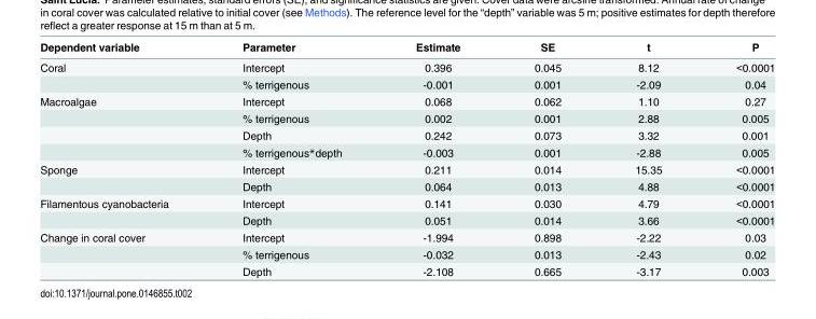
<table><thead><tr><td>Dependent variable</td><td>Parameter</td><td>Estimate</td><td>SE</td><td>t</td><td>P</td></tr></thead><tbody><tr><td rowspan="2">Coral</td><td>Intercept</td><td>0.396</td><td>0.045</td><td>8.12</td><td>&lt;0.0001</td></tr><tr><td>% terrigenous</td><td>-0.001</td><td>0.001</td><td>-2.09</td><td>0.04</td></tr><tr><td rowspan="4">Macroalgae</td><td>Intercept</td><td>0.068</td><td>0.062</td><td>1.10</td><td>0.27</td></tr><tr><td>% terrigenous</td><td>0.002</td><td>0.001</td><td>2.88</td><td>0.005</td></tr><tr><td>Depth</td><td>0.242</td><td>0.073</td><td>3.32</td><td>0.001</td></tr><tr><td>% terrigenous*depth</td><td>-0.003</td><td>0.001</td><td>-2.88</td><td>0.005</td></tr><tr><td rowspan="2">Sponge</td><td>Intercept</td><td>0.211</td><td>0.014</td><td>15.35</td><td>&lt;0.0001</td></tr><tr><td>Depth</td><td>0.064</td><td>0.013</td><td>4.88</td><td>&lt;0.0001</td></tr><tr><td rowspan="2">Filamentous cyanobacteria</td><td>Intercept</td><td>0.141</td><td>0.030</td><td>4.79</td><td>&lt;0.0001</td></tr><tr><td>Depth</td><td>0.051</td><td>0.014</td><td>3.66</td><td>&lt;0.0001</td></tr><tr><td rowspan="3">Change in coral cover</td><td>Intercept</td><td>-1.994</td><td>0.898</td><td>-2.22</td><td>0.03</td></tr><tr><td>% terrigenous</td><td>-0.032</td><td>0.013</td><td>-2.43</td><td>0.02</td></tr><tr><td>Depth</td><td>-2.108</td><td>0.665</td><td>-3.17</td><td>0.003</td></tr></tbody></table>